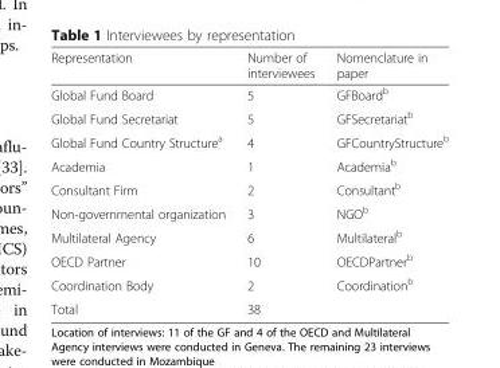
<table><thead><tr><td>Representation</td><td>Number of interviewees</td><td>Nomenclature in paper</td></tr></thead><tbody><tr><td>Global Fund Board</td><td>5</td><td>GFBoard<sup>b</sup></td></tr><tr><td>Global Fund Secretariat</td><td>5</td><td>GFSecretariat<sup>b</sup></td></tr><tr><td>Global Fund Country Structure<sup>a</sup></td><td>4</td><td>GFCountryStructure<sup>b</sup></td></tr><tr><td>Academia</td><td>1</td><td>Academia<sup>b</sup></td></tr><tr><td>Consultant Firm</td><td>2</td><td>Consultant<sup>b</sup></td></tr><tr><td>Non-governmental organization</td><td>3</td><td>NGO<sup>b</sup></td></tr><tr><td>Multilateral Agency</td><td>6</td><td>Multilateral<sup>b</sup></td></tr><tr><td>OECD Partner</td><td>10</td><td>OECDPartner<sup>b</sup></td></tr><tr><td>Coordination Body</td><td>2</td><td>Coordination<sup>b</sup></td></tr><tr><td>Total</td><td>38</td><td></td></tr></tbody></table>